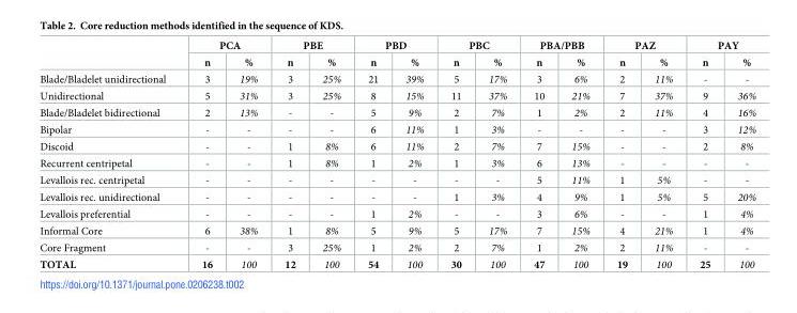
<table><thead><tr><td rowspan="2"></td><td colspan="2">PCA</td><td colspan="2">PBE</td><td colspan="2">PBD</td><td colspan="2">PBC</td><td colspan="2">PBA/PBB</td><td colspan="2">PAZ</td><td colspan="2">PAY</td></tr><tr><td>n</td><td>%</td><td>n</td><td>%</td><td>n</td><td>%</td><td>n</td><td>%</td><td>n</td><td>%</td><td>n</td><td>%</td><td>n</td><td>%</td></tr></thead><tbody><tr><td>Blade/Bladelet unidirectional</td><td>3</td><td>19%</td><td>3</td><td>25%</td><td>21</td><td>39%</td><td>5</td><td>17%</td><td>3</td><td>6%</td><td>2</td><td>11%</td><td>-</td><td>-</td></tr><tr><td>Unidirectional</td><td>5</td><td>31%</td><td>3</td><td>25%</td><td>8</td><td>15%</td><td>11</td><td>37%</td><td>10</td><td>21%</td><td>7</td><td>37%</td><td>9</td><td>36%</td></tr><tr><td>Blade/Bladelet bidirectional</td><td>2</td><td>13%</td><td>-</td><td>-</td><td>5</td><td>9%</td><td>2</td><td>7%</td><td>1</td><td>2%</td><td>2</td><td>11%</td><td>4</td><td>16%</td></tr><tr><td>Bipolar</td><td>-</td><td>-</td><td>-</td><td>-</td><td>6</td><td>11%</td><td>1</td><td>3%</td><td>-</td><td>-</td><td>-</td><td>-</td><td>3</td><td>12%</td></tr><tr><td>Discoid</td><td>-</td><td>-</td><td>1</td><td>8%</td><td>6</td><td>11%</td><td>2</td><td>7%</td><td>7</td><td>15%</td><td>-</td><td>-</td><td>2</td><td>8%</td></tr><tr><td>Recurrent centripetal</td><td>-</td><td>-</td><td>1</td><td>8%</td><td>1</td><td>2%</td><td>1</td><td>3%</td><td>6</td><td>13%</td><td>-</td><td>-</td><td>-</td><td>-</td></tr><tr><td>Levallois rec. centripetal</td><td>-</td><td>-</td><td>-</td><td>-</td><td>-</td><td>-</td><td>-</td><td>-</td><td>5</td><td>11%</td><td>1</td><td>5%</td><td>-</td><td>-</td></tr><tr><td>Levallois rec. unidirectional</td><td>-</td><td>-</td><td>-</td><td>-</td><td>-</td><td>-</td><td>1</td><td>3%</td><td>4</td><td>9%</td><td>1</td><td>5%</td><td>5</td><td>20%</td></tr><tr><td>Levallois preferential</td><td>-</td><td>-</td><td>-</td><td>-</td><td>1</td><td>2%</td><td>-</td><td>-</td><td>3</td><td>6%</td><td>-</td><td>-</td><td>1</td><td>4%</td></tr><tr><td>Informal Core</td><td>6</td><td>38%</td><td>1</td><td>8%</td><td>5</td><td>9%</td><td>5</td><td>17%</td><td>7</td><td>15%</td><td>4</td><td>21%</td><td>1</td><td>4%</td></tr><tr><td>Core Fragment</td><td>-</td><td>-</td><td>3</td><td>25%</td><td>1</td><td>2%</td><td>2</td><td>7%</td><td>1</td><td>2%</td><td>2</td><td>11%</td><td>-</td><td>-</td></tr><tr><td>TOTAL</td><td>16</td><td>100</td><td>12</td><td>100</td><td>54</td><td>100</td><td>30</td><td>100</td><td>47</td><td>100</td><td>19</td><td>100</td><td>25</td><td>100</td></tr></tbody></table>